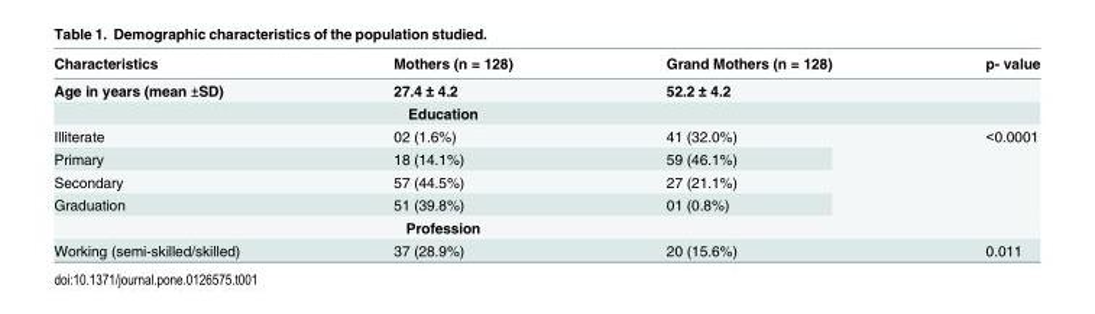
<table><thead><tr><td>Characteristics</td><td>Mothers (n = 128)</td><td>Grand Mothers (n = 128)</td><td>p- value</td></tr></thead><tbody><tr><td>Age in years (mean ±SD)</td><td>27.4 ± 4.2</td><td>52.2 ± 4.2</td><td></td></tr><tr><td colspan="4">Education</td></tr><tr><td>Illiterate</td><td>02 (1.6%)</td><td>41 (32.0%)</td><td rowspan="4">&lt;0.0001</td></tr><tr><td>Primary</td><td>18 (14.1%)</td><td>59 (46.1%)</td></tr><tr><td>Secondary</td><td>57 (44.5%)</td><td>27 (21.1%)</td></tr><tr><td>Graduation</td><td>51 (39.8%)</td><td>01 (0.8%)</td></tr><tr><td colspan="4">Profession</td></tr><tr><td>Working (semi-skilled/skilled)</td><td>37 (28.9%)</td><td>20 (15.6%)</td><td>0.011</td></tr></tbody></table>